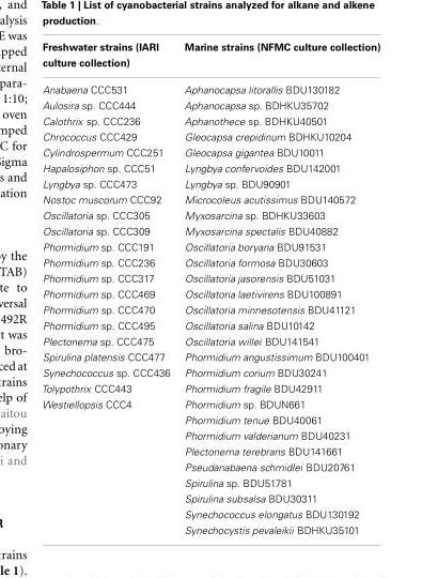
<table><thead><tr><td>Freshwater strains (IARI culture collection)</td><td>Marine strains (NFMC culture collection)</td></tr></thead><tbody><tr><td>Anabaena CCC531</td><td>Aphanocapsa litorallis BDU130182</td></tr><tr><td>Aulosira sp. CCC444</td><td>Aphanocapsa sp. BDHKU35702</td></tr><tr><td>Calothrix sp. CCC236</td><td>Aphanothece sp. BDHKU40501</td></tr><tr><td>Chrococcus CCC429</td><td>Gleocapsa crepidinum BDHKU10204</td></tr><tr><td>Cylindrospermum CCC251</td><td>Gleocapsa gigantea BDU10011</td></tr><tr><td>Hapalosiphon sp. CCC51</td><td>Lyngbya confervoides BDU142001</td></tr><tr><td>Lyngbya sp. CCC473</td><td>Lyngbya sp. BDU90901</td></tr><tr><td>Nostoc muscorum CCC92</td><td>Microcoleus acutissimus BDU140572</td></tr><tr><td>Oscillatoria sp. CCC305</td><td>Myxosarcina sp. BDHKU33603</td></tr><tr><td>Oscillatoria sp. CCC309</td><td>Myxosarcina spectalis BDU40882</td></tr><tr><td>Phormidium sp. CCC191</td><td>Oscillatoria boryana BDU91531</td></tr><tr><td>Phormidium sp. CCC236</td><td>Oscillatoria formosa BDU30603</td></tr><tr><td>Phormidium sp. CCC317</td><td>Oscillatoria jasorensis BDU51031</td></tr><tr><td>Phormidium sp. CCC469</td><td>Oscillatoria laetivirens BDU100891</td></tr><tr><td>Phormidium sp. CCC470</td><td>Oscillatoria minnesotensis BDU41121</td></tr><tr><td>Phormidium sp. CCC495</td><td>Oscillatoria salina BDU10142</td></tr><tr><td>Plectonema sp. CCC475</td><td>Oscillatoria willei BDU141541</td></tr><tr><td>Spirulina platensis CCC477</td><td>Phormidium angustissimum BDU100401</td></tr><tr><td>Synechococcus sp. CCC436</td><td>Phormidium corium BDU30241</td></tr><tr><td>Tolypothrix CCC443</td><td>Phormidium fragile BDU42911</td></tr><tr><td rowspan="9">Westiellopsis CCC4</td><td>Phormidium sp. BDUN661</td></tr><tr><td>Phormidium tenue BDU40061</td></tr><tr><td>Phormidium valderianum BDU40231</td></tr><tr><td>Plectonema terebrans BDU141661</td></tr><tr><td>Pseudanabaena schmidlei BDU20761</td></tr><tr><td>Spirulina sp. BDU51781</td></tr><tr><td>Spirulina subsalsa BDU30311</td></tr><tr><td>Synechococcus elongatus BDU130192</td></tr><tr><td>Synechocystis pevaleikii BDHKU35101</td></tr></tbody></table>